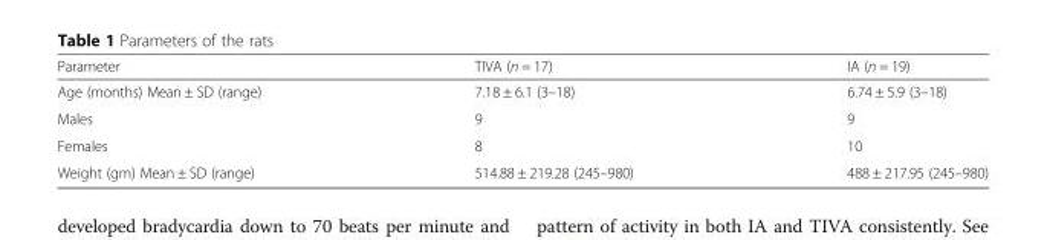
<table><thead><tr><td>Parameter</td><td>TIVA (n = 17)</td><td>IA (n = 19)</td></tr></thead><tbody><tr><td>Age (months) Mean ± SD (range)</td><td>7.18 ± 6.1 (3–18)</td><td>6.74 ± 5.9 (3–18)</td></tr><tr><td>Males</td><td>9</td><td>9</td></tr><tr><td>Females</td><td>8</td><td>10</td></tr><tr><td>Weight (gm) Mean ± SD (range)</td><td>514.88 ± 219.28 (245–980)</td><td>488 ± 217.95 (245–980)</td></tr></tbody></table>